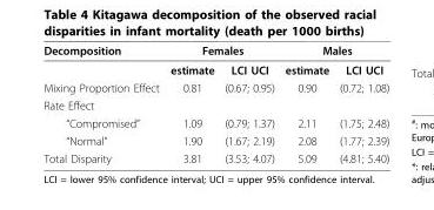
<table><tbody><tr><td rowspan="2">Decomposition</td><td colspan="2">Females</td><td colspan="2">Males</td></tr><tr><td>estimate</td><td>LCI UCI</td><td>estimate</td><td>LCI UCI</td></tr><tr><td>Mixing Proportion Effect</td><td>0.81</td><td>(0.67; 0.95)</td><td>0.90</td><td>(0.72; 1.08)</td></tr><tr><td colspan="5">Rate Effect</td></tr><tr><td>“Compromised”</td><td>1.09</td><td>(0.79; 1.37)</td><td>2.11</td><td>(1.75; 2.48)</td></tr><tr><td>“Normal”</td><td>1.90</td><td>(1.67; 2.19)</td><td>2.08</td><td>(1.77; 2.39)</td></tr><tr><td>Total Disparity</td><td>3.81</td><td>(3.53; 4.07)</td><td>5.09</td><td>(4.81; 5.40)</td></tr></tbody></table>